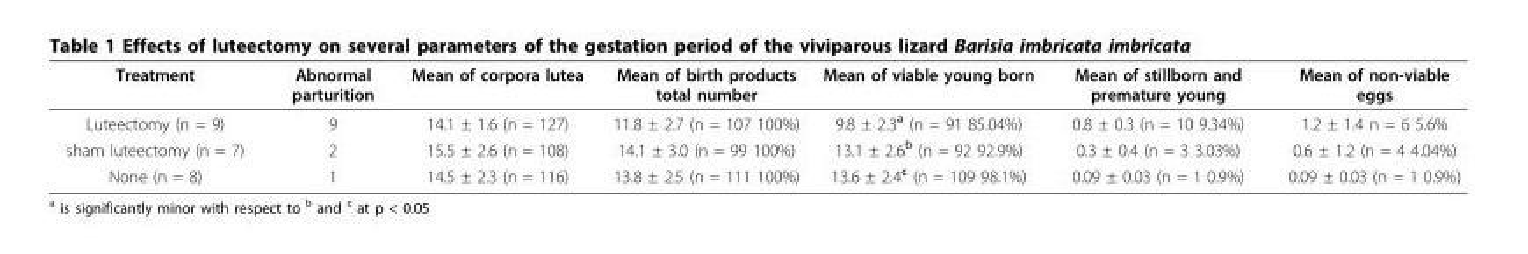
<table><thead><tr><td>Treatment</td><td>Abnormal parturition</td><td>Mean of corpora lutea</td><td>Mean of birth products total number</td><td>Mean of viable young born</td><td>Mean of stillborn and premature young</td><td>Mean of non-viable eggs</td></tr></thead><tbody><tr><td>Luteectomy (n = 9)</td><td>9</td><td>14.1 ± 1.6 (n = 127)</td><td>11.8 ± 2.7 (n = 107 100%)</td><td>9.8 ± 2.3<sup>a</sup> (n = 91 85.04%)</td><td>0.8 ± 0.3 (n = 10 9.34%)</td><td>1.2 ± 1.4 n = 6 5.6%</td></tr><tr><td>sham luteectomy (n = 7)</td><td>2</td><td>15.5 ± 2.6 (n = 108)</td><td>14.1 ± 3.0 (n = 99 100%)</td><td>13.1 ± 2.6<sup>b</sup> (n = 92 92.9%)</td><td>0.3 ± 0.4 (n = 3 3.03%)</td><td>0.6 ± 1.2 (n = 4 4.04%)</td></tr><tr><td>None (n = 8)</td><td>1</td><td>14.5 ± 2.3 (n = 116)</td><td>13.8 ± 2.5 (n = 111 100%)</td><td>13.6 ± 2.4<sup>c</sup> (n = 109 98.1%)</td><td>0.09 ± 0.03 (n = 1 0.9%)</td><td>0.09 ± 0.03 (n = 1 0.9%)</td></tr></tbody></table>